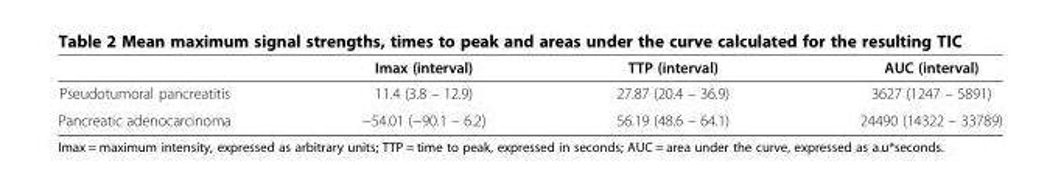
<table><thead><tr><td></td><td>Imax (interval)</td><td>TTP (interval)</td><td>AUC (interval)</td></tr></thead><tbody><tr><td>Pseudotumoral pancreatitis</td><td>11.4 (3.8 – 12.9)</td><td>27.87 (20.4 – 36.9)</td><td>3627 (1247 – 5891)</td></tr><tr><td>Pancreatic adenocarcinoma</td><td>−54.01 (−90.1 – 6.2)</td><td>56.19 (48.6 – 64.1)</td><td>24490 (14322 – 33789)</td></tr></tbody></table>